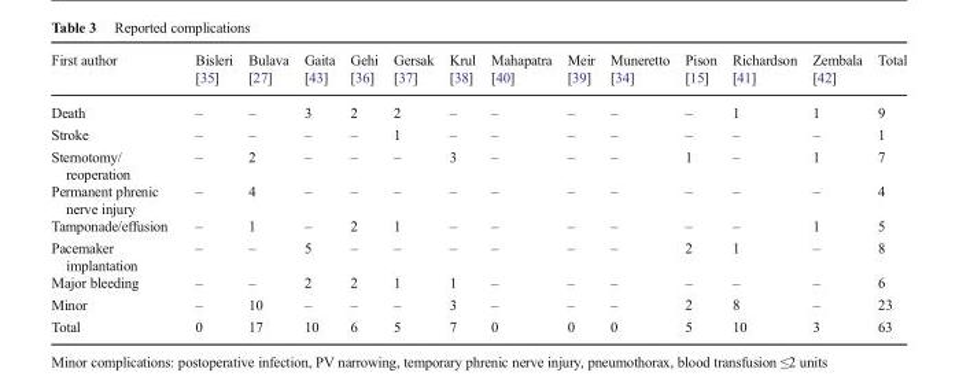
<table><thead><tr><td>First author</td><td>Bisleri [35]</td><td>Bulava [27]</td><td>Gaita [43]</td><td>Gehi [36]</td><td>Gersak [37]</td><td>Krul [38]</td><td>Mahapatra [40]</td><td>Meir [39]</td><td>Muneretto [34]</td><td>Pison [15]</td><td>Richardson [41]</td><td>Zembala [42]</td><td>Total</td></tr></thead><tbody><tr><td>Death</td><td>–</td><td>–</td><td>3</td><td>2</td><td>2</td><td>–</td><td>–</td><td>–</td><td>–</td><td>–</td><td>1</td><td>1</td><td>9</td></tr><tr><td>Stroke</td><td>–</td><td>–</td><td>–</td><td>–</td><td>1</td><td>–</td><td>–</td><td>–</td><td>–</td><td>–</td><td>–</td><td>–</td><td>1</td></tr><tr><td>Sternotomy/ reoperation</td><td>–</td><td>2</td><td>–</td><td>–</td><td>–</td><td>3</td><td>–</td><td>–</td><td>–</td><td>1</td><td>–</td><td>1</td><td>7</td></tr><tr><td>Permanent phrenic nerve injury</td><td>–</td><td>4</td><td>–</td><td>–</td><td>–</td><td>–</td><td>–</td><td>–</td><td>–</td><td>–</td><td>–</td><td>–</td><td>4</td></tr><tr><td>Tamponade/effusion</td><td>–</td><td>1</td><td>–</td><td>2</td><td>1</td><td>–</td><td>–</td><td>–</td><td>–</td><td>–</td><td>–</td><td>1</td><td>5</td></tr><tr><td>Pacemaker implantation</td><td>–</td><td>–</td><td>5</td><td>–</td><td>–</td><td>–</td><td>–</td><td>–</td><td>–</td><td>2</td><td>1</td><td>–</td><td>8</td></tr><tr><td>Major bleeding</td><td>–</td><td>–</td><td>2</td><td>2</td><td>1</td><td>1</td><td>–</td><td>–</td><td>–</td><td>–</td><td>–</td><td>–</td><td>6</td></tr><tr><td>Minor</td><td>–</td><td>10</td><td>–</td><td>–</td><td>–</td><td>3</td><td>–</td><td>–</td><td>–</td><td>2</td><td>8</td><td>–</td><td>23</td></tr><tr><td>Total</td><td>0</td><td>17</td><td>10</td><td>6</td><td>5</td><td>7</td><td>0</td><td>0</td><td>0</td><td>5</td><td>10</td><td>3</td><td>63</td></tr></tbody></table>